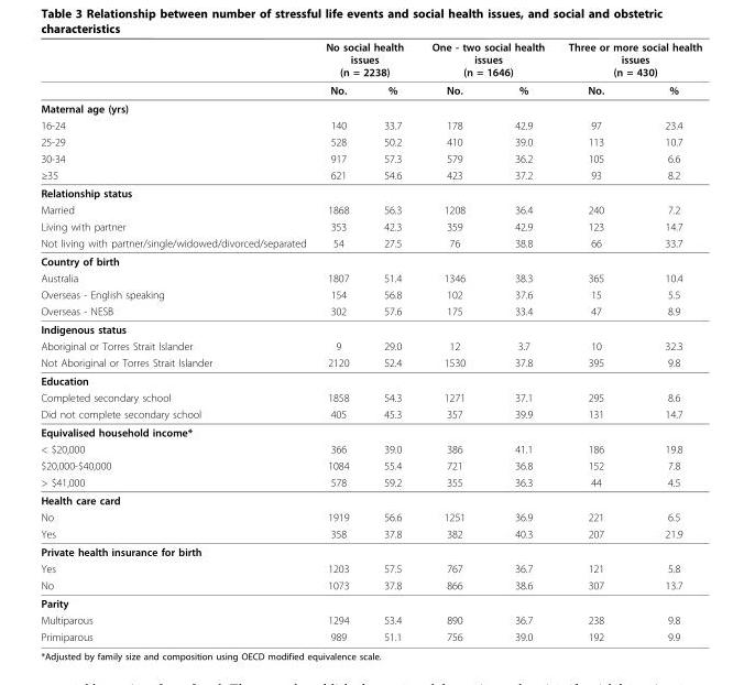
<table><thead><tr><td rowspan="2"></td><td colspan="2">No social health issues (n = 2238)</td><td colspan="2">One - two social health issues (n = 1646)</td><td colspan="2">Three or more social health issues (n = 430)</td></tr><tr><td>No.</td><td>%</td><td>No.</td><td>%</td><td>No.</td><td>%</td></tr></thead><tbody><tr><td colspan="7">Maternal age (yrs)</td></tr><tr><td>16-24</td><td>140</td><td>33.7</td><td>178</td><td>42.9</td><td>97</td><td>23.4</td></tr><tr><td>25-29</td><td>528</td><td>50.2</td><td>410</td><td>39.0</td><td>113</td><td>10.7</td></tr><tr><td>30-34</td><td>917</td><td>57.3</td><td>579</td><td>36.2</td><td>105</td><td>6.6</td></tr><tr><td>≥35</td><td>621</td><td>54.6</td><td>423</td><td>37.2</td><td>93</td><td>8.2</td></tr><tr><td colspan="7">Relationship status</td></tr><tr><td>Married</td><td>1868</td><td>56.3</td><td>1208</td><td>36.4</td><td>240</td><td>7.2</td></tr><tr><td>Living with partner</td><td>353</td><td>42.3</td><td>359</td><td>42.9</td><td>123</td><td>14.7</td></tr><tr><td>Not living with partner/single/widowed/divorced/separated</td><td>54</td><td>27.5</td><td>76</td><td>38.8</td><td>66</td><td>33.7</td></tr><tr><td colspan="7">Country of birth</td></tr><tr><td>Australia</td><td>1807</td><td>51.4</td><td>1346</td><td>38.3</td><td>365</td><td>10.4</td></tr><tr><td>Overseas - English speaking</td><td>154</td><td>56.8</td><td>102</td><td>37.6</td><td>15</td><td>5.5</td></tr><tr><td>Overseas - NESB</td><td>302</td><td>57.6</td><td>175</td><td>33.4</td><td>47</td><td>8.9</td></tr><tr><td colspan="7">Indigenous status</td></tr><tr><td>Aboriginal or Torres Strait Islander</td><td>9</td><td>29.0</td><td>12</td><td>3.7</td><td>10</td><td>32.3</td></tr><tr><td>Not Aboriginal or Torres Strait Islander</td><td>2120</td><td>52.4</td><td>1530</td><td>37.8</td><td>395</td><td>9.8</td></tr><tr><td colspan="7">Education</td></tr><tr><td>Completed secondary school</td><td>1858</td><td>54.3</td><td>1271</td><td>37.1</td><td>295</td><td>8.6</td></tr><tr><td>Did not complete secondary school</td><td>405</td><td>45.3</td><td>357</td><td>39.9</td><td>131</td><td>14.7</td></tr><tr><td colspan="7">Equivalised household income*</td></tr><tr><td>&lt; $20,000</td><td>366</td><td>39.0</td><td>386</td><td>41.1</td><td>186</td><td>19.8</td></tr><tr><td>$20,000-$40,000</td><td>1084</td><td>55.4</td><td>721</td><td>36.8</td><td>152</td><td>7.8</td></tr><tr><td>&gt; $41,000</td><td>578</td><td>59.2</td><td>355</td><td>36.3</td><td>44</td><td>4.5</td></tr><tr><td colspan="7">Health care card</td></tr><tr><td>No</td><td>1919</td><td>56.6</td><td>1251</td><td>36.9</td><td>221</td><td>6.5</td></tr><tr><td>Yes</td><td>358</td><td>37.8</td><td>382</td><td>40.3</td><td>207</td><td>21.9</td></tr><tr><td colspan="7">Private health insurance for birth</td></tr><tr><td>Yes</td><td>1203</td><td>57.5</td><td>767</td><td>36.7</td><td>121</td><td>5.8</td></tr><tr><td>No</td><td>1073</td><td>37.8</td><td>866</td><td>38.6</td><td>307</td><td>13.7</td></tr><tr><td colspan="7">Parity</td></tr><tr><td>Multiparous</td><td>1294</td><td>53.4</td><td>890</td><td>36.7</td><td>238</td><td>9.8</td></tr><tr><td>Primiparous</td><td>989</td><td>51.1</td><td>756</td><td>39.0</td><td>192</td><td>9.9</td></tr></tbody></table>